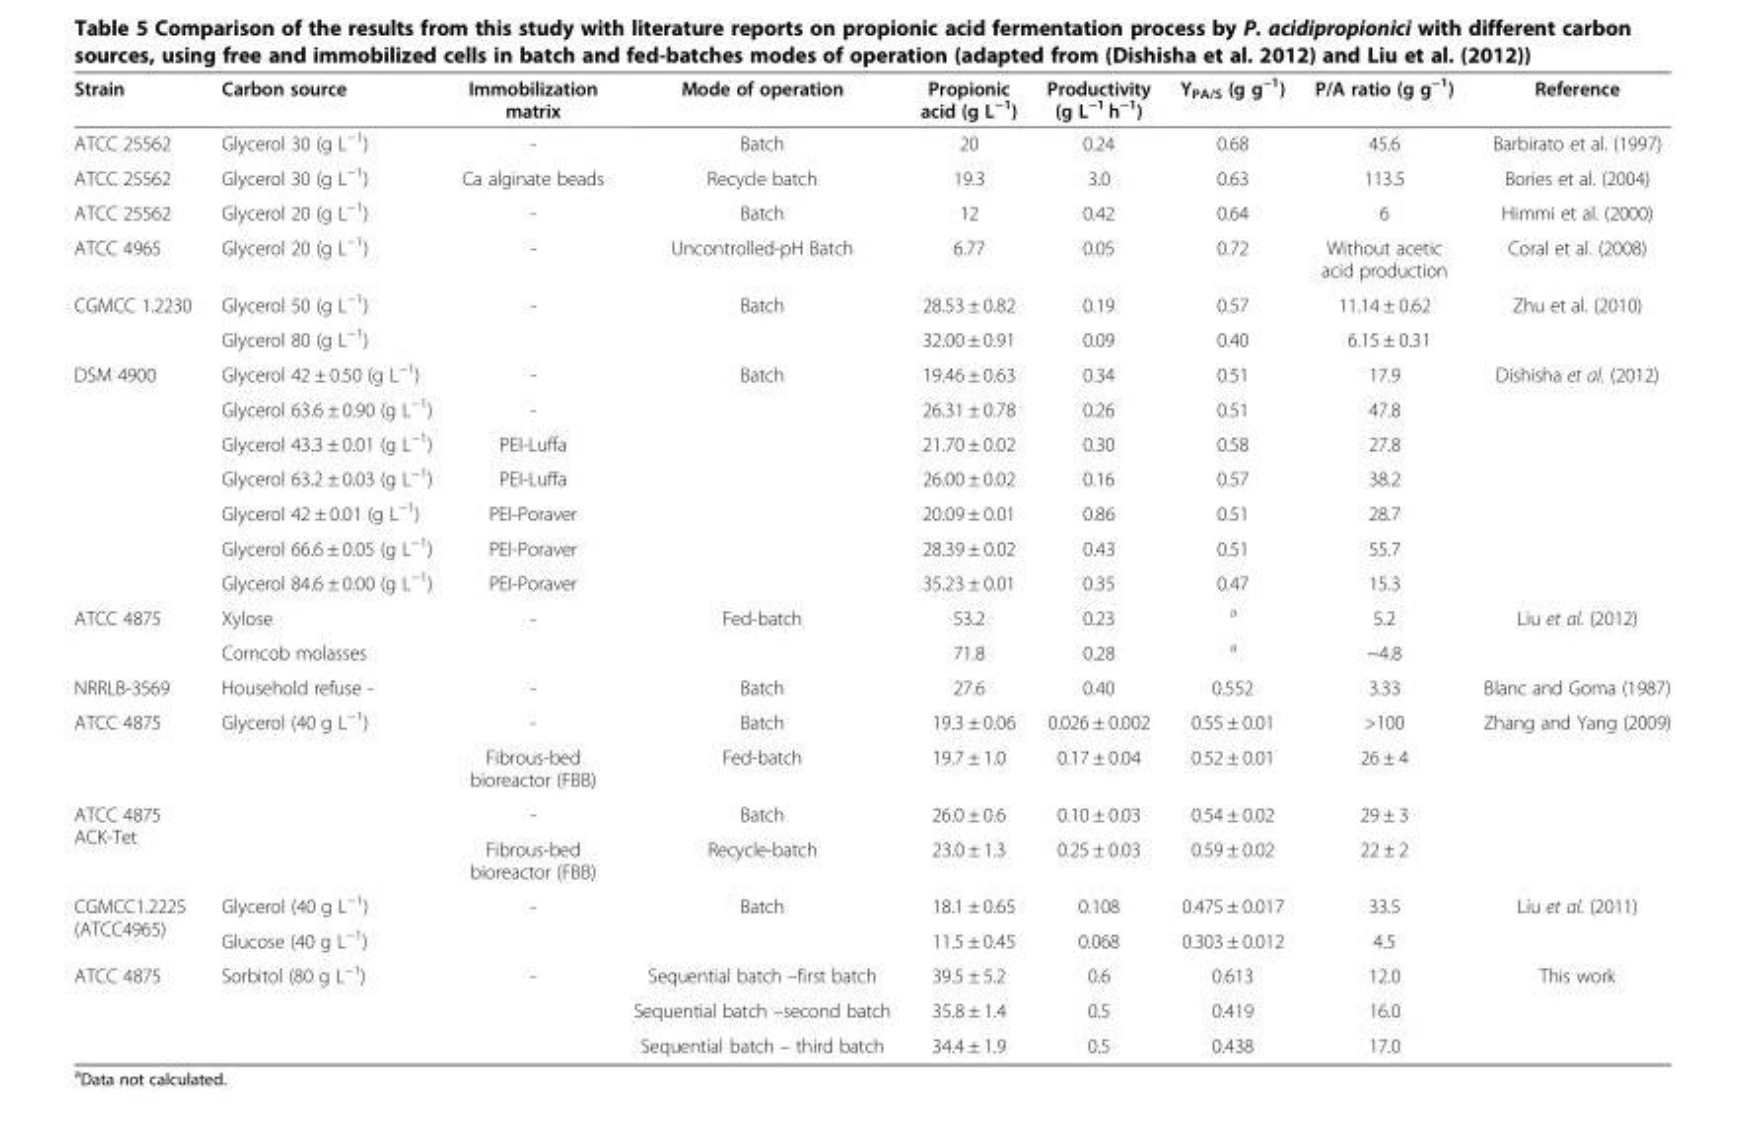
<table><thead><tr><td>Strain</td><td>Carbon source</td><td>Immobilization matrix</td><td>Mode of operation</td><td>Propionic acid (g L<sup>−1</sup>)</td><td>Productivity (g L<sup>−1</sup> h<sup>−1</sup>)</td><td>Y<sub>PA/S</sub> (g g<sup>−1</sup>)</td><td>P/A ratio (g g<sup>−1</sup>)</td><td>Reference</td></tr></thead><tbody><tr><td>ATCC 25562</td><td>Glycerol 30 (g L<sup>−1</sup>)</td><td>-</td><td>Batch</td><td>20</td><td>0.24</td><td>0.68</td><td>45.6</td><td>Barbirato et al. (1997)</td></tr><tr><td>ATCC 25562</td><td>Glycerol 30 (g L<sup>−1</sup>)</td><td>Ca alginate beads</td><td>Recycle batch</td><td>19.3</td><td>3.0</td><td>0.63</td><td>113.5</td><td>Bories et al. (2004)</td></tr><tr><td>ATCC 25562</td><td>Glycerol 20 (g L<sup>−1</sup>)</td><td>-</td><td>Batch</td><td>12</td><td>0.42</td><td>0.64</td><td>6</td><td>Himmi et al. (2000)</td></tr><tr><td>ATCC 4965</td><td>Glycerol 20 (g L<sup>−1</sup>)</td><td>-</td><td>Uncontrolled-pH Batch</td><td>6.77</td><td>0.05</td><td>0.72</td><td>Without acetic acid production</td><td>Coral et al. (2008)</td></tr><tr><td rowspan="2">CGMCC 1.2230</td><td>Glycerol 50 (g L<sup>−1</sup>)</td><td rowspan="2">-</td><td rowspan="2">Batch</td><td>28.53 ± 0.82</td><td>0.19</td><td>0.57</td><td>11.14 ± 0.62</td><td rowspan="2">Zhu et al. (2010)</td></tr><tr><td>Glycerol 80 (g L<sup>−1</sup>)</td><td>32.00 ± 0.91</td><td>0.09</td><td>0.40</td><td>6.15 ± 0.31</td></tr><tr><td rowspan="7">DSM 4900</td><td>Glycerol 42 ± 0.50 (g L<sup>−1</sup>)</td><td>-</td><td rowspan="7">Batch</td><td>19.46 ± 0.63</td><td>0.34</td><td>0.51</td><td>17.9</td><td rowspan="7">Dishisha et al. (2012)</td></tr><tr><td>Glycerol 63.6 ± 0.90 (g L<sup>−1</sup>)</td><td>-</td><td>26.31 ± 0.78</td><td>0.26</td><td>0.51</td><td>47.8</td></tr><tr><td>Glycerol 43.3 ± 0.01 (g L<sup>−1</sup>)</td><td>PEI-Luffa</td><td>21.70 ± 0.02</td><td>0.30</td><td>0.58</td><td>27.8</td></tr><tr><td>Glycerol 63.2 ± 0.03 (g L<sup>−1</sup>)</td><td>PEI-Luffa</td><td>26.00 ± 0.02</td><td>0.16</td><td>0.57</td><td>38.2</td></tr><tr><td>Glycerol 42 ± 0.01 (g L<sup>−1</sup>)</td><td>PEI-Poraver</td><td>20.09 ± 0.01</td><td>0.86</td><td>0.51</td><td>28.7</td></tr><tr><td>Glycerol 66.6 ± 0.05 (g L<sup>−1</sup>)</td><td>PEI-Poraver</td><td>28.39 ± 0.02</td><td>0.43</td><td>0.51</td><td>55.7</td></tr><tr><td>Glycerol 84.6 ± 0.00 (g L<sup>−1</sup>)</td><td>PEI-Poraver</td><td>35.23 ± 0.01</td><td>0.35</td><td>0.47</td><td>15.3</td></tr><tr><td rowspan="2">ATCC 4875</td><td>Xylose</td><td rowspan="2">-</td><td rowspan="2">Fed-batch</td><td>53.2</td><td>0.23</td><td><sup>a</sup></td><td>5.2</td><td rowspan="2">Liu et al. (2012)</td></tr><tr><td>Corncob molasses</td><td>71.8</td><td>0.28</td><td><sup>a</sup></td><td>~4.8</td></tr><tr><td>NRRLB-3569</td><td>Household refuse -</td><td>-</td><td>Batch</td><td>27.6</td><td>0.40</td><td>0.552</td><td>3.33</td><td>Blanc and Goma (1987)</td></tr><tr><td rowspan="2">ATCC 4875</td><td rowspan="4">Glycerol (40 g L<sup>−1</sup>)</td><td>-</td><td>Batch</td><td>19.3 ± 0.06</td><td>0.026 ± 0.002</td><td>0.55 ± 0.01</td><td>&gt;100</td><td rowspan="4">Zhang and Yang (2009)</td></tr><tr><td>Fibrous-bed bioreactor (FBB)</td><td>Fed-batch</td><td>19.7 ± 1.0</td><td>0.17 ± 0.04</td><td>0.52 ± 0.01</td><td>26 ± 4</td></tr><tr><td rowspan="2">ATCC 4875 ACK-Tet</td><td>-</td><td>Batch</td><td>26.0 ± 0.6</td><td>0.10 ± 0.03</td><td>0.54 ± 0.02</td><td>29 ± 3</td></tr><tr><td>Fibrous-bed bioreactor (FBB)</td><td>Recycle-batch</td><td>23.0 ± 1.3</td><td>0.25 ± 0.03</td><td>0.59 ± 0.02</td><td>22 ± 2</td></tr><tr><td rowspan="2">CGMCC1.2225 (ATCC4965)</td><td>Glycerol (40 g L<sup>−1</sup>)</td><td rowspan="2">-</td><td rowspan="2">Batch</td><td>18.1 ± 0.65</td><td>0.108</td><td>0.475 ± 0.017</td><td>33.5</td><td rowspan="2">Liu et al. (2011)</td></tr><tr><td>Glucose (40 g L<sup>−1</sup>)</td><td>11.5 ± 0.45</td><td>0.068</td><td>0.303 ± 0.012</td><td>4.5</td></tr><tr><td rowspan="3">ATCC 4875</td><td rowspan="3">Sorbitol (80 g L<sup>−1</sup>)</td><td rowspan="3">-</td><td>Sequential batch –first batch</td><td>39.5 ± 5.2</td><td>0.6</td><td>0.613</td><td>12.0</td><td rowspan="3">This work</td></tr><tr><td>Sequential batch –second batch</td><td>35.8 ± 1.4</td><td>0.5</td><td>0.419</td><td>16.0</td></tr><tr><td>Sequential batch – third batch</td><td>34.4 ± 1.9</td><td>0.5</td><td>0.438</td><td>17.0</td></tr></tbody></table>